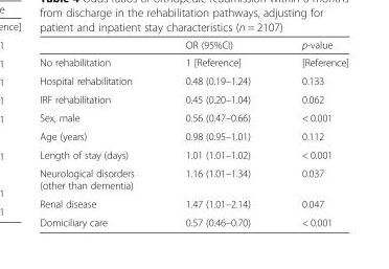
<table><thead><tr><td></td><td>OR (95%CI)</td><td>p-value</td></tr></thead><tbody><tr><td>No rehabilitation</td><td>1 [Reference]</td><td>[Reference]</td></tr><tr><td>Hospital rehabilitation</td><td>0.48 (0.19–1.24)</td><td>0.133</td></tr><tr><td>IRF rehabilitation</td><td>0.45 (0.20–1.04)</td><td>0.062</td></tr><tr><td>Sex, male</td><td>0.56 (0.47–0.66)</td><td>&lt; 0.001</td></tr><tr><td>Age (years)</td><td>0.98 (0.95–1.01)</td><td>0.112</td></tr><tr><td>Length of stay (days)</td><td>1.01 (1.01–1.02)</td><td>&lt; 0.001</td></tr><tr><td>Neurological disorders (other than dementia)</td><td>1.16 (1.01–1.34)</td><td>0.037</td></tr><tr><td>Renal disease</td><td>1.47 (1.01–2.14)</td><td>0.047</td></tr><tr><td>Domiciliary care</td><td>0.57 (0.46–0.70)</td><td>&lt; 0.001</td></tr></tbody></table>